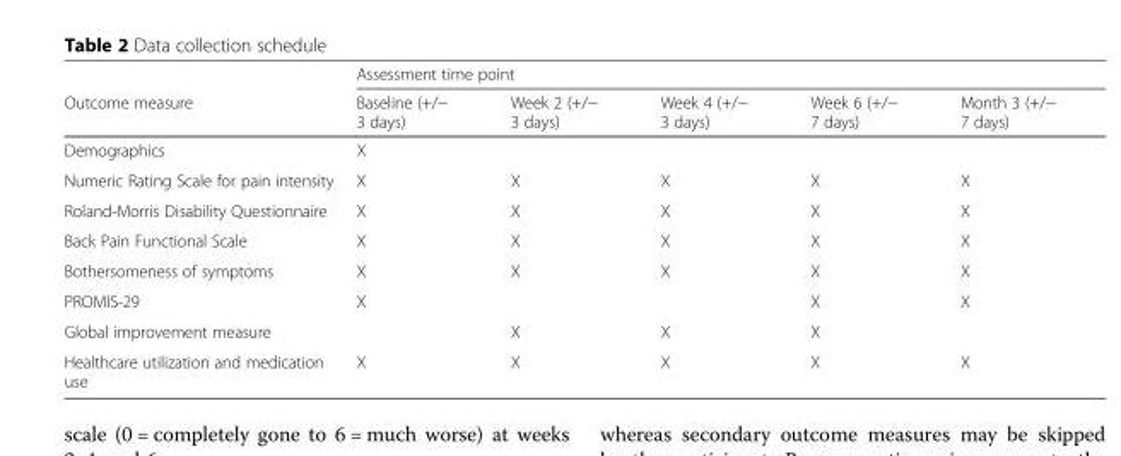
<table><thead><tr><td rowspan="2">Outcome measure</td><td colspan="5">Assessment time point</td></tr><tr><td>Baseline (+/− 3 days)</td><td>Week 2 (+/− 3 days)</td><td>Week 4 (+/− 3 days)</td><td>Week 6 (+/− 7 days)</td><td>Month 3 (+/− 7 days)</td></tr></thead><tbody><tr><td>Demographics</td><td>X</td><td></td><td></td><td></td><td></td></tr><tr><td>Numeric Rating Scale for pain intensity</td><td>X</td><td>X</td><td>X</td><td>X</td><td>X</td></tr><tr><td>Roland-Morris Disability Questionnaire</td><td>X</td><td>X</td><td>X</td><td>X</td><td>X</td></tr><tr><td>Back Pain Functional Scale</td><td>X</td><td>X</td><td>X</td><td>X</td><td>X</td></tr><tr><td>Bothersomeness of symptoms</td><td>X</td><td>X</td><td>X</td><td>X</td><td>X</td></tr><tr><td>PROMIS-29</td><td>X</td><td></td><td></td><td>X</td><td>X</td></tr><tr><td>Global improvement measure</td><td></td><td>X</td><td>X</td><td>X</td><td></td></tr><tr><td>Healthcare utilization and medication use</td><td>X</td><td>X</td><td>X</td><td>X</td><td>X</td></tr></tbody></table>